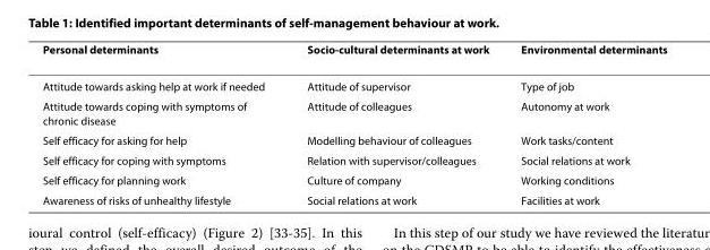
<table><thead><tr><td>Personal determinants</td><td>Socio-cultural determinants at work</td><td>Environmental determinants</td></tr></thead><tbody><tr><td>Attitude towards asking help at work if needed</td><td>Attitude of supervisor</td><td>Type of job</td></tr><tr><td>Attitude towards coping with symptoms of chronic disease</td><td>Attitude of colleagues</td><td>Autonomy at work</td></tr><tr><td>Self efficacy for asking for help</td><td>Modelling behaviour of colleagues</td><td>Work tasks/content</td></tr><tr><td>Self efficacy for coping with symptoms</td><td>Relation with supervisor/colleagues</td><td>Social relations at work</td></tr><tr><td>Self efficacy for planning work</td><td>Culture of company</td><td>Working conditions</td></tr><tr><td>Awareness of risks of unhealthy lifestyle</td><td>Social relations at work</td><td>Facilities at work</td></tr></tbody></table>